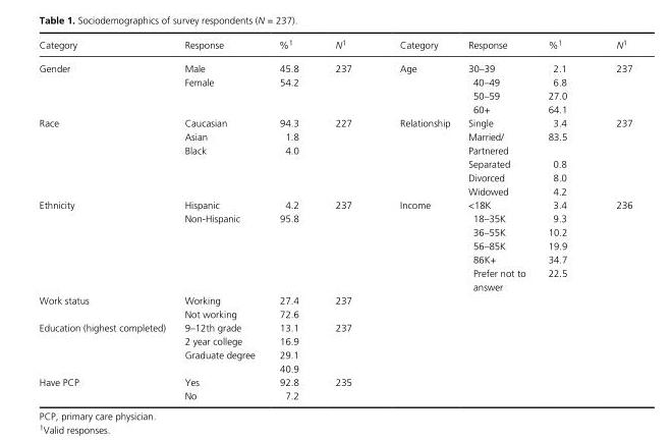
<table><thead><tr><td>Category</td><td>Response</td><td>%1</td><td>N1</td><td>Category</td><td>Response</td><td>%1</td><td>N1</td></tr></thead><tbody><tr><td>Gender</td><td>Male Female</td><td>45.8 54.2</td><td>237</td><td>Age</td><td>30–39 40–49 50–59 60+</td><td>2.1 6.8 27.0 64.1</td><td>237</td></tr><tr><td>Race</td><td>Caucasian Asian Black</td><td>94.3 1.8 4.0</td><td>227</td><td>Relationship</td><td>Single Married/ Partnered Separated Divorced Widowed</td><td>3.4 83.5 0.8 8.0 4.2</td><td>237</td></tr><tr><td>Ethnicity</td><td>Hispanic Non- Hispanic</td><td>4.2 95.8</td><td>237</td><td>Income</td><td>&lt;18K 18–35K 36–55K 56–85K 86K+ Prefer not to answer</td><td>3.4 9.3 10.2 19.9 34.7 22.5</td><td>236</td></tr><tr><td>Work status</td><td>Working Not working</td><td>27.4 72.6</td><td>237</td><td rowspan="3" colspan="4"></td></tr><tr><td>Education (highest completed)</td><td>9–12th grade 2 year college Graduate degree</td><td>13.1 16.9 29.1 40.9</td><td>237</td></tr><tr><td>Have PCP</td><td>Yes No</td><td>92.8 7.2</td><td>235</td></tr></tbody></table>